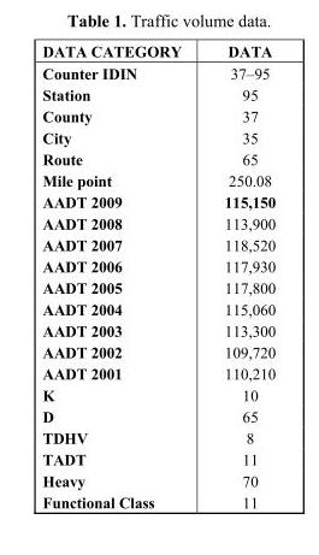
<table><thead><tr><td>DATA CATEGORY</td><td>DATA</td></tr></thead><tbody><tr><td>Counter IDIN</td><td>37–95</td></tr><tr><td>Station</td><td>95</td></tr><tr><td>County</td><td>37</td></tr><tr><td>City</td><td>35</td></tr><tr><td>Route</td><td>65</td></tr><tr><td>Mile point</td><td>250.08</td></tr><tr><td>AADT 2009</td><td>115,150</td></tr><tr><td>AADT 2008</td><td>113,900</td></tr><tr><td>AADT 2007</td><td>118,520</td></tr><tr><td>AADT 2006</td><td>117,930</td></tr><tr><td>AADT 2005</td><td>117,800</td></tr><tr><td>AADT 2004</td><td>115,060</td></tr><tr><td>AADT 2003</td><td>113,300</td></tr><tr><td>AADT 2002</td><td>109,720</td></tr><tr><td>AADT 2001</td><td>110,210</td></tr><tr><td>K</td><td>10</td></tr><tr><td>D</td><td>65</td></tr><tr><td>TDHV</td><td>8</td></tr><tr><td>TADT</td><td>11</td></tr><tr><td>Heavy</td><td>70</td></tr><tr><td>Functional Class</td><td>11</td></tr></tbody></table>